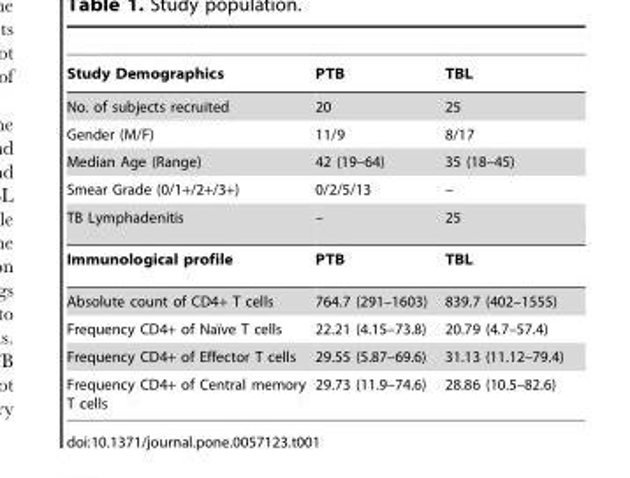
<table><thead><tr><td>Study Demographics</td><td>PTB</td><td>TBL</td></tr></thead><tbody><tr><td>No. of subjects recruited</td><td>20</td><td>25</td></tr><tr><td>Gender (M/F)</td><td>11/9</td><td>8/17</td></tr><tr><td>Median Age (Range)</td><td>42 (19–64)</td><td>35 (18–45)</td></tr><tr><td>Smear Grade (0/1+/2+/3+)</td><td>0/2/5/13</td><td>–</td></tr><tr><td>TB Lymphadenitis</td><td>–</td><td>25</td></tr><tr><td>Immunological profile</td><td>PTB</td><td>TBL</td></tr><tr><td>Absolute count of CD4+ T cells</td><td>764.7 (291–1603)</td><td>839.7 (402–1555)</td></tr><tr><td>Frequency CD4+ of Naı¨ve T cells</td><td>22.21 (4.15–73.8)</td><td>20.79 (4.7–57.4)</td></tr><tr><td>Frequency CD4+ of Effector T cells</td><td>29.55 (5.87–69.6)</td><td>31.13 (11.12–79.4)</td></tr><tr><td>Frequency CD4+ of Central memory T cells</td><td>29.73 (11.9–74.6)</td><td>28.86 (10.5–82.6)</td></tr></tbody></table>